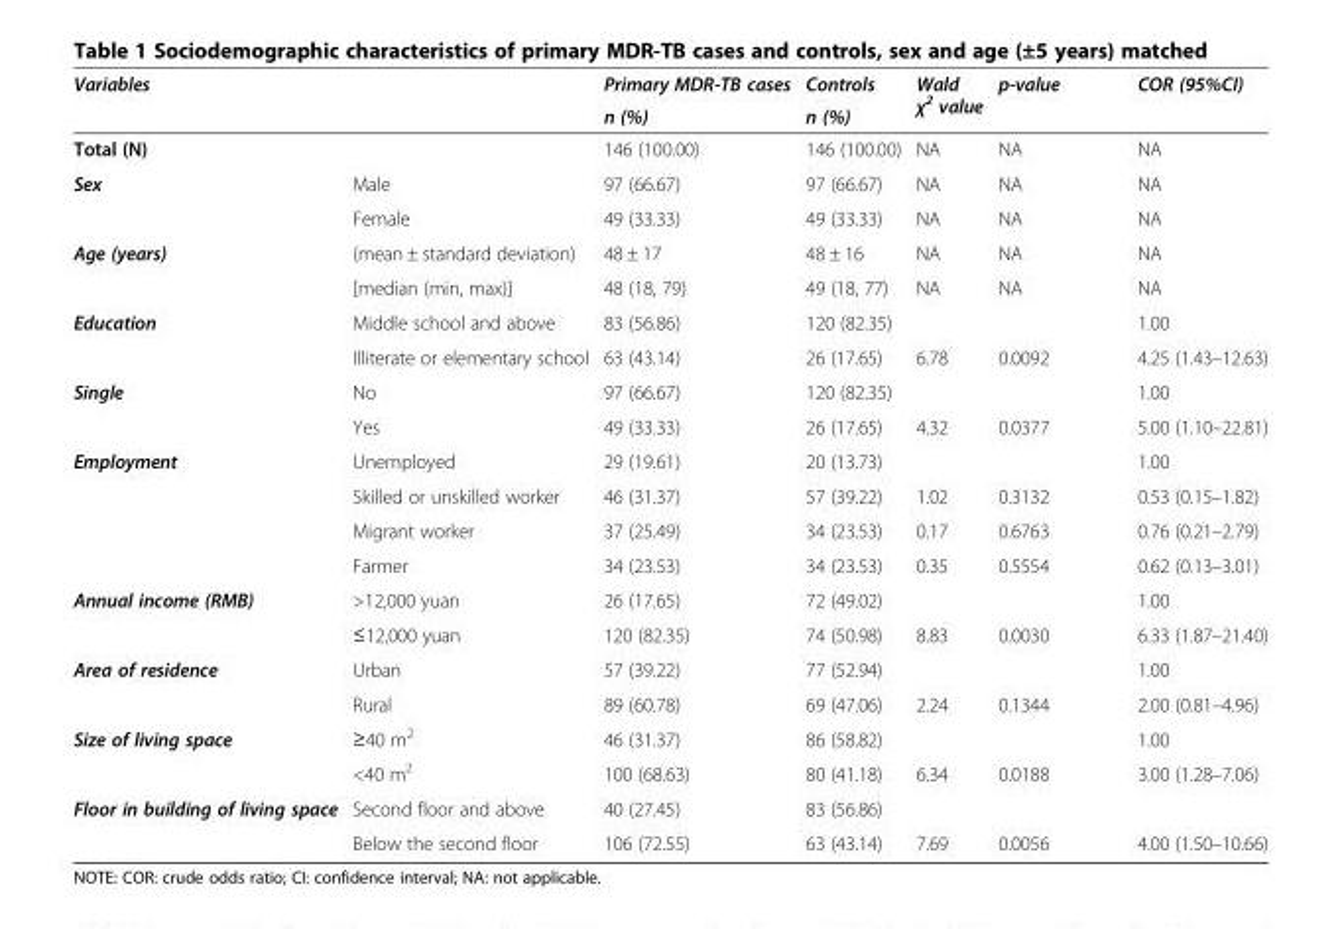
<table><thead><tr><td rowspan="2" colspan="2">Variables</td><td rowspan="3">Primary MDR-TB cases n (%) 146 (100.00)</td><td rowspan="3">Controls n (%) 146 (100.00)</td><td rowspan="3">Wald χ<sup>2</sup> value NA</td><td rowspan="3">p-value NA</td><td rowspan="3">COR (95%CI) NA</td></tr><tr></tr><tr><td>Total (N)</td><td></td></tr></thead><tbody><tr><td rowspan="2">Sex</td><td>Male</td><td>97 (66.67)</td><td>97 (66.67)</td><td>NA</td><td>NA</td><td>NA</td></tr><tr><td>Female</td><td>49 (33.33)</td><td>49 (33.33)</td><td>NA</td><td>NA</td><td>NA</td></tr><tr><td rowspan="2">Age (years)</td><td>(mean ± standard deviation)</td><td>48 ± 17</td><td>48 ± 16</td><td>NA</td><td>NA</td><td>NA</td></tr><tr><td>[median (min, max)]</td><td>48 (18, 79)</td><td>49 (18, 77)</td><td>NA</td><td>NA</td><td>NA</td></tr><tr><td rowspan="2">Education</td><td>Middle school and above</td><td>83 (56.86)</td><td>120 (82.35)</td><td></td><td></td><td>1.00</td></tr><tr><td>Illiterate or elementary school</td><td>63 (43.14)</td><td>26 (17.65)</td><td>6.78</td><td>0.0092</td><td>4.25 (1.43–12.63)</td></tr><tr><td rowspan="2">Single</td><td>No</td><td>97 (66.67)</td><td>120 (82.35)</td><td></td><td></td><td>1.00</td></tr><tr><td>Yes</td><td>49 (33.33)</td><td>26 (17.65)</td><td>4.32</td><td>0.0377</td><td>5.00 (1.10–22.81)</td></tr><tr><td rowspan="4">Employment</td><td>Unemployed</td><td>29 (19.61)</td><td>20 (13.73)</td><td></td><td></td><td>1.00</td></tr><tr><td>Skilled or unskilled worker</td><td>46 (31.37)</td><td>57 (39.22)</td><td>1.02</td><td>0.3132</td><td>0.53 (0.15–1.82)</td></tr><tr><td>Migrant worker</td><td>37 (25.49)</td><td>34 (23.53)</td><td>0.17</td><td>0.6763</td><td>0.76 (0.21–2.79)</td></tr><tr><td>Farmer</td><td>34 (23.53)</td><td>34 (23.53)</td><td>0.35</td><td>0.5554</td><td>0.62 (0.13–3.01)</td></tr><tr><td rowspan="2">Annual income (RMB)</td><td>&gt;12,000 yuan</td><td>26 (17.65)</td><td>72 (49.02)</td><td></td><td></td><td>1.00</td></tr><tr><td>≤12,000 yuan</td><td>120 (82.35)</td><td>74 (50.98)</td><td>8.83</td><td>0.0030</td><td>6.33 (1.87–21.40)</td></tr><tr><td rowspan="2">Area of residence</td><td>Urban</td><td>57 (39.22)</td><td>77 (52.94)</td><td></td><td></td><td>1.00</td></tr><tr><td>Rural</td><td>89 (60.78)</td><td>69 (47.06)</td><td>2.24</td><td>0.1344</td><td>2.00 (0.81–4.96)</td></tr><tr><td rowspan="2">Size of living space</td><td>≥40 m<sup>2</sup></td><td>46 (31.37)</td><td>86 (58.82)</td><td></td><td></td><td>1.00</td></tr><tr><td>&lt;40 m<sup>2</sup></td><td>100 (68.63)</td><td>80 (41.18)</td><td>6.34</td><td>0.0188</td><td>3.00 (1.28–7.06)</td></tr><tr><td rowspan="2">Floor in building of living space</td><td>Second floor and above</td><td>40 (27.45)</td><td>83 (56.86)</td><td></td><td></td><td></td></tr><tr><td>Below the second floor</td><td>106 (72.55)</td><td>63 (43.14)</td><td>7.69</td><td>0.0056</td><td>4.00 (1.50–10.66)</td></tr></tbody></table>